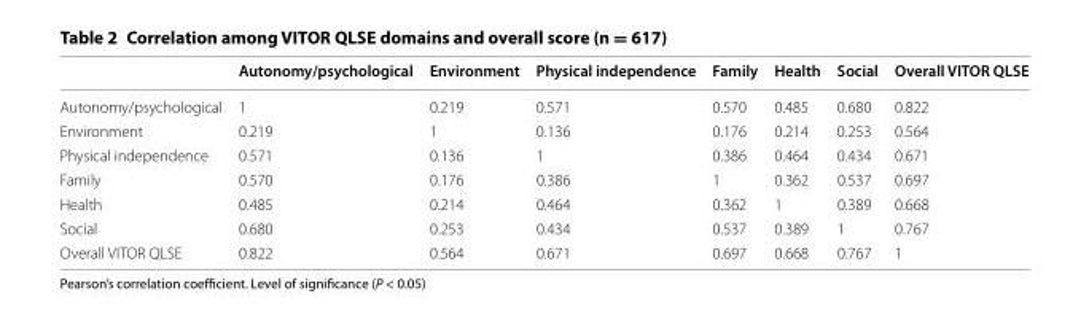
<table><thead><tr><td></td><td>Autonomy/psychological</td><td>Environment</td><td>Physical independence</td><td>Family</td><td>Health</td><td>Social</td><td>Overall VITOR QLSE</td></tr></thead><tbody><tr><td>Autonomy/psychological</td><td>1</td><td>0.219</td><td>0.571</td><td>0.570</td><td>0.485</td><td>0.680</td><td>0.822</td></tr><tr><td>Environment</td><td>0.219</td><td>1</td><td>0.136</td><td>0.176</td><td>0.214</td><td>0.253</td><td>0.564</td></tr><tr><td>Physical independence</td><td>0.571</td><td>0.136</td><td>1</td><td>0.386</td><td>0.464</td><td>0.434</td><td>0.671</td></tr><tr><td>Family</td><td>0.570</td><td>0.176</td><td>0.386</td><td>1</td><td>0.362</td><td>0.537</td><td>0.697</td></tr><tr><td>Health</td><td>0.485</td><td>0.214</td><td>0.464</td><td>0.362</td><td>1</td><td>0.389</td><td>0.668</td></tr><tr><td>Social</td><td>0.680</td><td>0.253</td><td>0.434</td><td>0.537</td><td>0.389</td><td>1</td><td>0.767</td></tr><tr><td>Overall VITOR QLSE</td><td>0.822</td><td>0.564</td><td>0.671</td><td>0.697</td><td>0.668</td><td>0.767</td><td>1</td></tr></tbody></table>